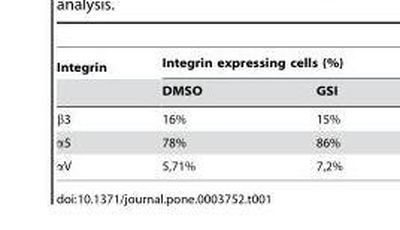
<table><thead><tr><td rowspan="2">Integrin</td><td colspan="2">Integrin expressing cells (%)</td></tr><tr><td>DMSO</td><td>GSI</td></tr></thead><tbody><tr><td>β3</td><td>16%</td><td>15%</td></tr><tr><td>α5</td><td>78%</td><td>86%</td></tr><tr><td>αV</td><td>5,71%</td><td>7,2%</td></tr></tbody></table>